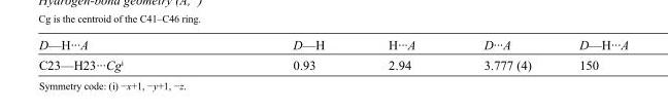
<table><tbody><tr><td>D—H···A</td><td>D—H</td><td>H···A</td><td>D···A</td><td>D—H···A</td></tr><tr><td>C23—H23···Cg<sup>i</sup></td><td>0.93</td><td>2.94</td><td>3.777 (4)</td><td>150</td></tr></tbody></table>